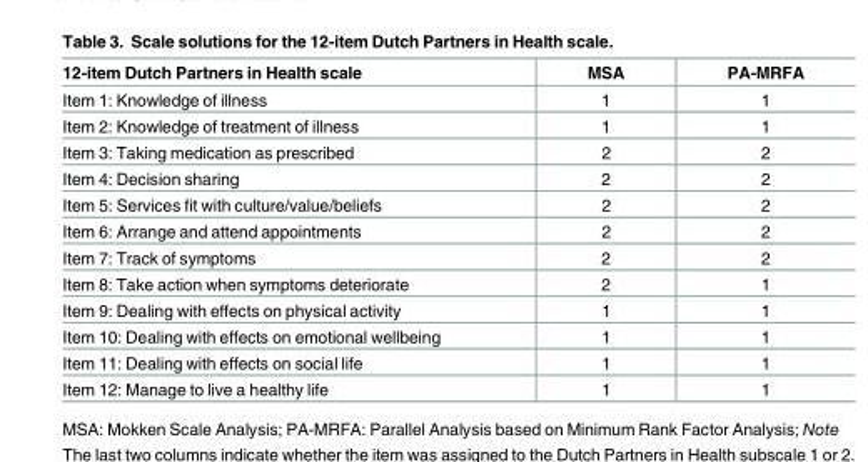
<table><thead><tr><td>12-item Dutch Partners in Health scale</td><td>MSA</td><td>PA-MRFA</td></tr></thead><tbody><tr><td>Item 1: Knowledge of illness</td><td>1</td><td>1</td></tr><tr><td>Item 2: Knowledge of treatment of illness</td><td>1</td><td>1</td></tr><tr><td>Item 3: Taking medication as prescribed</td><td>2</td><td>2</td></tr><tr><td>Item 4: Decision sharing</td><td>2</td><td>2</td></tr><tr><td>Item 5: Services fit with culture/value/beliefs</td><td>2</td><td>2</td></tr><tr><td>Item 6: Arrange and attend appointments</td><td>2</td><td>2</td></tr><tr><td>Item 7: Track of symptoms</td><td>2</td><td>2</td></tr><tr><td>Item 8: Take action when symptoms deteriorate</td><td>2</td><td>1</td></tr><tr><td>Item 9: Dealing with effects on physical activity</td><td>1</td><td>1</td></tr><tr><td>Item 10: Dealing with effects on emotional wellbeing</td><td>1</td><td>1</td></tr><tr><td>Item 11: Dealing with effects on social life</td><td>1</td><td>1</td></tr><tr><td>Item 12: Manage to live a healthy life</td><td>1</td><td>1</td></tr></tbody></table>